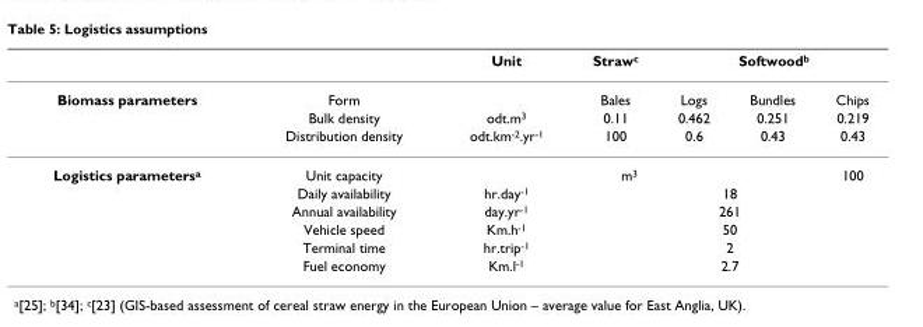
<table><thead><tr><td rowspan="2">Biomass parameters</td><td rowspan="2">Form</td><td rowspan="2">Unit</td><td rowspan="2">Straw<sup>c</sup> Bales</td><td colspan="3">Softwood<sup>b</sup></td></tr><tr><td>Logs</td><td>Bundles</td><td>Chips</td></tr></thead><tbody><tr><td></td><td>Bulk density</td><td>odt.m<sup>3</sup></td><td>0.11</td><td>0.462</td><td>0.251</td><td>0.219</td></tr><tr><td></td><td>Distribution density</td><td>odt.km<sup>-2</sup>.yr<sup>-1</sup></td><td>100</td><td>0.6</td><td>0.43</td><td>0.43</td></tr><tr><td rowspan="6">Logistics parameters<sup>a</sup></td><td>Unit capacity</td><td colspan="4">m<sup>3</sup></td><td>100</td></tr><tr><td>Daily availability</td><td>hr.day<sup>-1</sup></td><td colspan="4">18</td></tr><tr><td>Annual availability</td><td>day.yr<sup>-1</sup></td><td colspan="4">261</td></tr><tr><td>Vehicle speed</td><td>Km.h<sup>-1</sup></td><td colspan="4">50</td></tr><tr><td>Terminal time</td><td>hr.trip<sup>-1</sup></td><td colspan="4">2</td></tr><tr><td>Fuel economy</td><td>Km.l<sup>-1</sup></td><td colspan="4">2.7</td></tr></tbody></table>